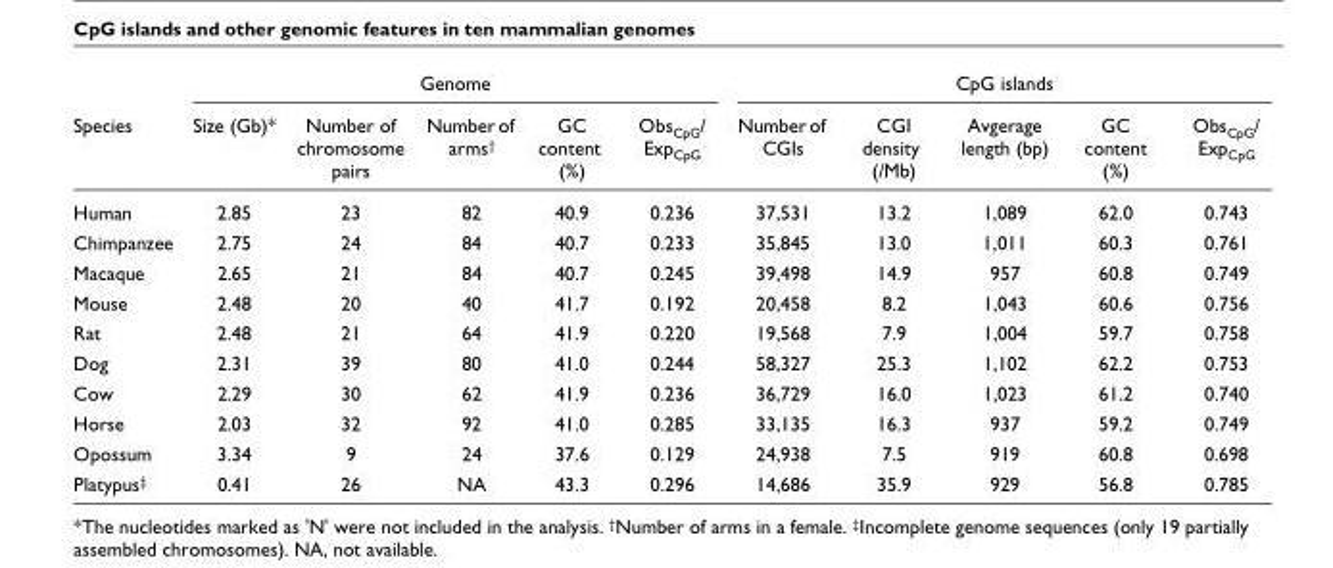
<table><thead><tr><td rowspan="2">Species</td><td colspan="5">Genome</td><td colspan="5">CpG islands</td></tr><tr><td>Size (Gb)*</td><td>Number of chromosome pairs</td><td>Number of arms<sup>†</sup></td><td>GC content (%)</td><td>Obs<sub>CpG</sub>/ Exp<sub>CpG</sub></td><td>Number of CGIs</td><td>CGI density (/Mb)</td><td>Avgerage length (bp)</td><td>GC content (%)</td><td>Obs<sub>CpG</sub>/ Exp<sub>CpG</sub></td></tr></thead><tbody><tr><td>Human</td><td>2.85</td><td>23</td><td>82</td><td>40.9</td><td>0.236</td><td>37,531</td><td>13.2</td><td>1,089</td><td>62.0</td><td>0.743</td></tr><tr><td>Chimpanzee</td><td>2.75</td><td>24</td><td>84</td><td>40.7</td><td>0.233</td><td>35,845</td><td>13.0</td><td>1,011</td><td>60.3</td><td>0.761</td></tr><tr><td>Macaque</td><td>2.65</td><td>21</td><td>84</td><td>40.7</td><td>0.245</td><td>39,498</td><td>14.9</td><td>957</td><td>60.8</td><td>0.749</td></tr><tr><td>Mouse</td><td>2.48</td><td>20</td><td>40</td><td>41.7</td><td>0.192</td><td>20,458</td><td>8.2</td><td>1,043</td><td>60.6</td><td>0.756</td></tr><tr><td>Rat</td><td>2.48</td><td>21</td><td>64</td><td>41.9</td><td>0.220</td><td>19,568</td><td>7.9</td><td>1,004</td><td>59.7</td><td>0.758</td></tr><tr><td>Dog</td><td>2.31</td><td>39</td><td>80</td><td>41.0</td><td>0.244</td><td>58,327</td><td>25.3</td><td>1,102</td><td>62.2</td><td>0.753</td></tr><tr><td>Cow</td><td>2.29</td><td>30</td><td>62</td><td>41.9</td><td>0.236</td><td>36,729</td><td>16.0</td><td>1,023</td><td>61.2</td><td>0.740</td></tr><tr><td>Horse</td><td>2.03</td><td>32</td><td>92</td><td>41.0</td><td>0.285</td><td>33,135</td><td>16.3</td><td>937</td><td>59.2</td><td>0.749</td></tr><tr><td>Opossum</td><td>3.34</td><td>9</td><td>24</td><td>37.6</td><td>0.129</td><td>24,938</td><td>7.5</td><td>919</td><td>60.8</td><td>0.698</td></tr><tr><td>Platypus<sup>‡</sup></td><td>0.41</td><td>26</td><td>NA</td><td>43.3</td><td>0.296</td><td>14,686</td><td>35.9</td><td>929</td><td>56.8</td><td>0.785</td></tr></tbody></table>